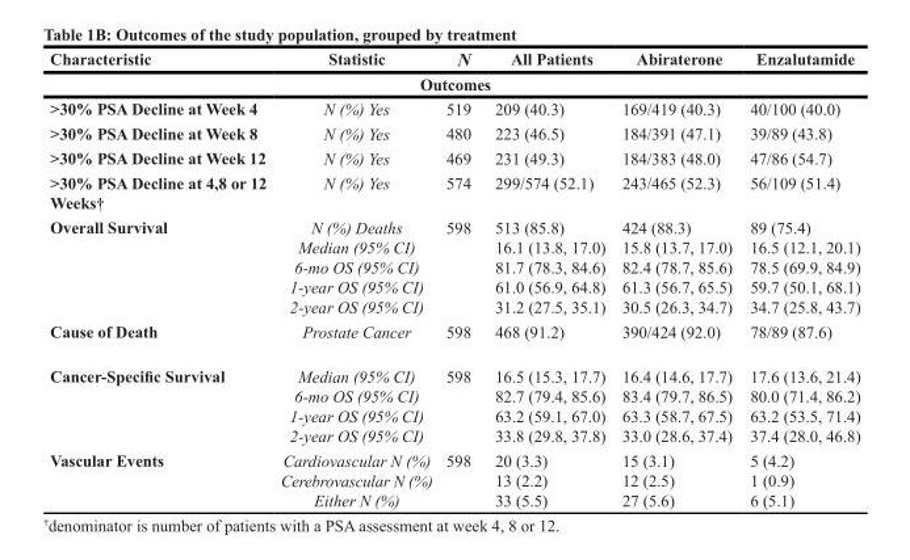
<table><thead><tr><td>Characteristic</td><td>Statistic</td><td>N</td><td>All Patients</td><td>Abiraterone</td><td>Enzalutamide</td></tr><tr><td colspan="6">Outcomes</td></tr></thead><tbody><tr><td>&gt;30% PSA Decline at Week 4</td><td>N (%) Yes</td><td>519</td><td>209 (40.3)</td><td>169/419 (40.3)</td><td>40/100 (40.0)</td></tr><tr><td>&gt;30% PSA Decline at Week 8</td><td>N (%) Yes</td><td>480</td><td>223 (46.5)</td><td>184/391 (47.1)</td><td>39/89 (43.8)</td></tr><tr><td>&gt;30% PSA Decline at Week 12</td><td>N (%) Yes</td><td>469</td><td>231 (49.3)</td><td>184/383 (48.0)</td><td>47/86 (54.7)</td></tr><tr><td>&gt;30% PSA Decline at 4,8 or 12 Weeks†</td><td>N (%) Yes</td><td>574</td><td>299/574 (52.1)</td><td>243/465 (52.3)</td><td>56/109 (51.4)</td></tr><tr><td>Overall Survival</td><td>N (%) Deaths Median (95% CI) 6-mo OS (95% CI) 1-year OS (95% CI) 2-year OS (95% CI)</td><td>598</td><td>513 (85.8) 16.1 (13.8, 17.0) 81.7 (78.3, 84.6) 61.0 (56.9, 64.8) 31.2 (27.5, 35.1)</td><td>424 (88.3) 15.8 (13.7, 17.0) 82.4 (78.7, 85.6) 61.3 (56.7, 65.5) 30.5 (26.3, 34.7)</td><td>89 (75.4) 16.5 (12.1, 20.1) 78.5 (69.9, 84.9) 59.7 (50.1, 68.1) 34.7 (25.8, 43.7)</td></tr><tr><td>Cause of Death</td><td>Prostate Cancer</td><td>598</td><td>468 (91.2)</td><td>390/424 (92.0)</td><td>78/89 (87.6)</td></tr><tr><td>Cancer-Specific Survival</td><td>Median (95% CI) 6-mo OS (95% CI) 1-year OS (95% CI) 2-year OS (95% CI)</td><td>598</td><td>16.5 (15.3, 17.7) 82.7 (79.4, 85.6) 63.2 (59.1, 67.0) 33.8 (29.8, 37.8)</td><td>16.4 (14.6, 17.7) 83.4 (79.7, 86.5) 63.3 (58.7, 67.5) 33.0 (28.6, 37.4)</td><td>17.6 (13.6, 21.4) 80.0 (71.4, 86.2) 63.2 (53.5, 71.4) 37.4 (28.0, 46.8)</td></tr><tr><td>Vascular Events</td><td>Cardiovascular N (%) Cerebrovascular N (%) Either N (%)</td><td>598</td><td>20 (3.3) 13 (2.2) 33 (5.5)</td><td>15 (3.1) 12 (2.5) 27 (5.6)</td><td>5 (4.2) 1 (0.9) 6 (5.1)</td></tr></tbody></table>